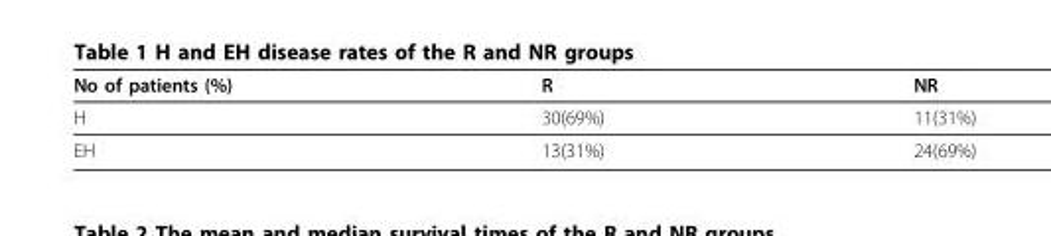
<table><thead><tr><td>No of patients (%)</td><td>R</td><td>NR</td></tr></thead><tbody><tr><td>H</td><td>30(69%)</td><td>11(31%)</td></tr><tr><td>EH</td><td>13(31%)</td><td>24(69%)</td></tr></tbody></table>